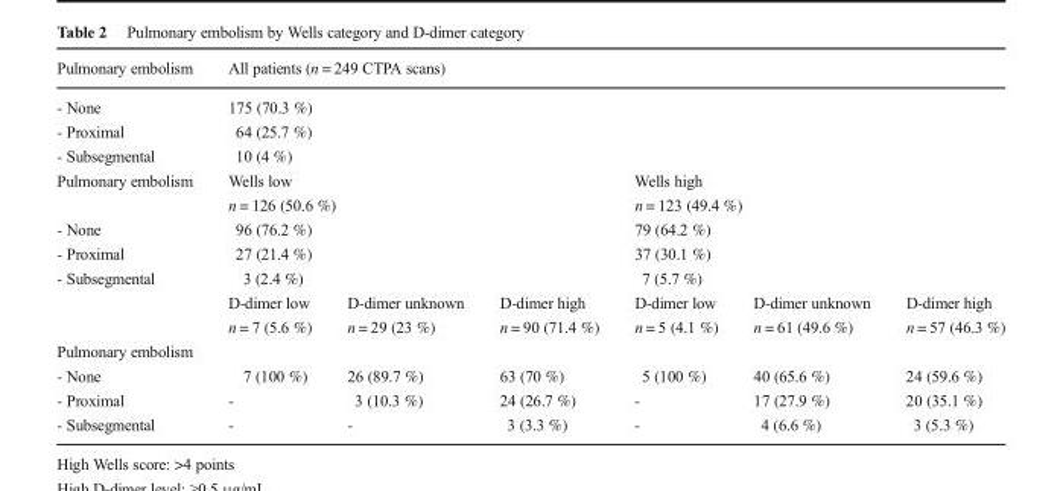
<table><thead><tr><td>Pulmonary embolism</td><td colspan="6">All patients (n = 249 CTPA scans)</td></tr></thead><tbody><tr><td>- None</td><td colspan="6">175 (70.3 %)</td></tr><tr><td>- Proximal</td><td colspan="6">64 (25.7 %)</td></tr><tr><td>- Subsegmental</td><td colspan="6">10 (4 %)</td></tr><tr><td rowspan="2">Pulmonary embolism</td><td colspan="3">Wells low</td><td colspan="3">Wells high</td></tr><tr><td colspan="3">n = 126 (50.6 %)</td><td colspan="3">n = 123 (49.4 %)</td></tr><tr><td>- None</td><td colspan="3">96 (76.2 %)</td><td colspan="3">79 (64.2 %)</td></tr><tr><td>- Proximal</td><td colspan="3">27 (21.4 %)</td><td colspan="3">37 (30.1 %)</td></tr><tr><td rowspan="3">- Subsegmental</td><td colspan="3">3 (2.4 %)</td><td colspan="3">7 (5.7 %)</td></tr><tr><td>D-dimer low</td><td>D-dimer unknown</td><td>D-dimer high</td><td>D-dimer low</td><td>D-dimer unknown</td><td>D-dimer high</td></tr><tr><td>n = 7 (5.6 %)</td><td>n = 29 (23 %)</td><td>n = 90 (71.4 %)</td><td>n = 5 (4.1 %)</td><td>n = 61 (49.6 %)</td><td>n = 57 (46.3 %)</td></tr><tr><td colspan="7">Pulmonary embolism</td></tr><tr><td>- None</td><td>7 (100 %)</td><td>26 (89.7 %)</td><td>63 (70 %)</td><td>5 (100 %)</td><td>40 (65.6 %)</td><td>24 (59.6 %)</td></tr><tr><td>- Proximal</td><td>-</td><td>3 (10.3 %)</td><td>24 (26.7 %)</td><td>-</td><td>17 (27.9 %)</td><td>20 (35.1 %)</td></tr><tr><td>- Subsegmental</td><td>-</td><td>-</td><td>3 (3.3 %)</td><td>-</td><td>4 (6.6 %)</td><td>3 (5.3 %)</td></tr></tbody></table>